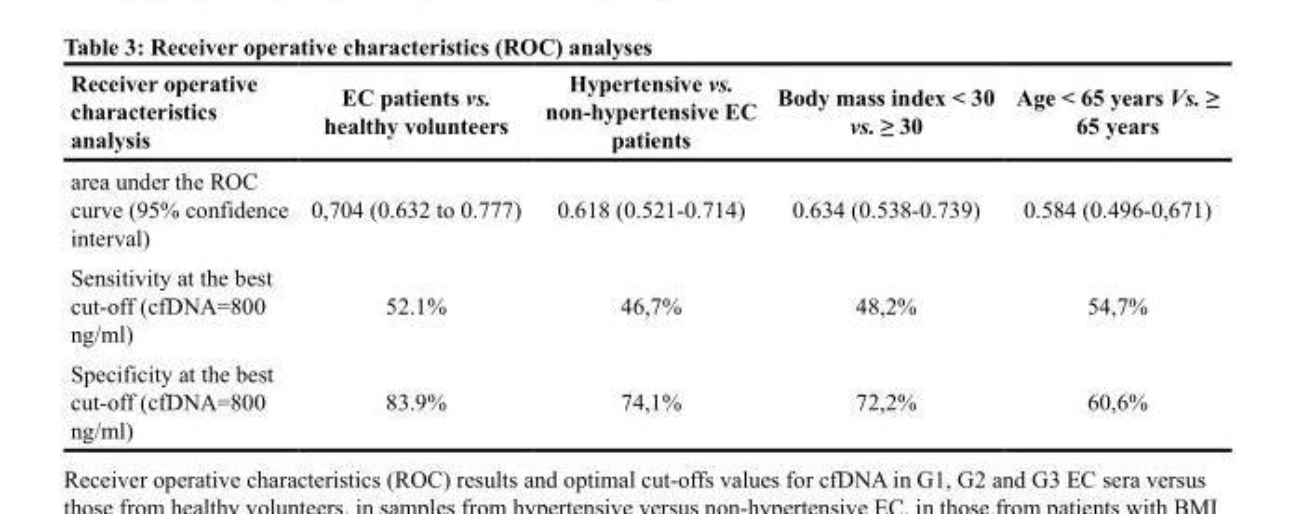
<table><thead><tr><td>Receiver operative characteristics analysis</td><td>EC patients vs. healthy volunteers</td><td>Hypertensive vs. non-hypertensive EC patients</td><td>Body mass index &lt; 30 vs. ≥ 30</td><td>Age &lt; 65 years Vs. ≥ 65 years</td></tr></thead><tbody><tr><td>area under the ROC curve (95% confidence interval)</td><td>0,704 (0.632 to 0.777)</td><td>0.618 (0.521-0.714)</td><td>0.634 (0.538-0.739)</td><td>0.584 (0.496-0,671)</td></tr><tr><td>Sensitivity at the best cut-off (cfDNA=800 ng/ml)</td><td>52.1%</td><td>46,7%</td><td>48,2%</td><td>54,7%</td></tr><tr><td>Specificity at the best cut-off (cfDNA=800 ng/ml)</td><td>83.9%</td><td>74,1%</td><td>72,2%</td><td>60,6%</td></tr></tbody></table>